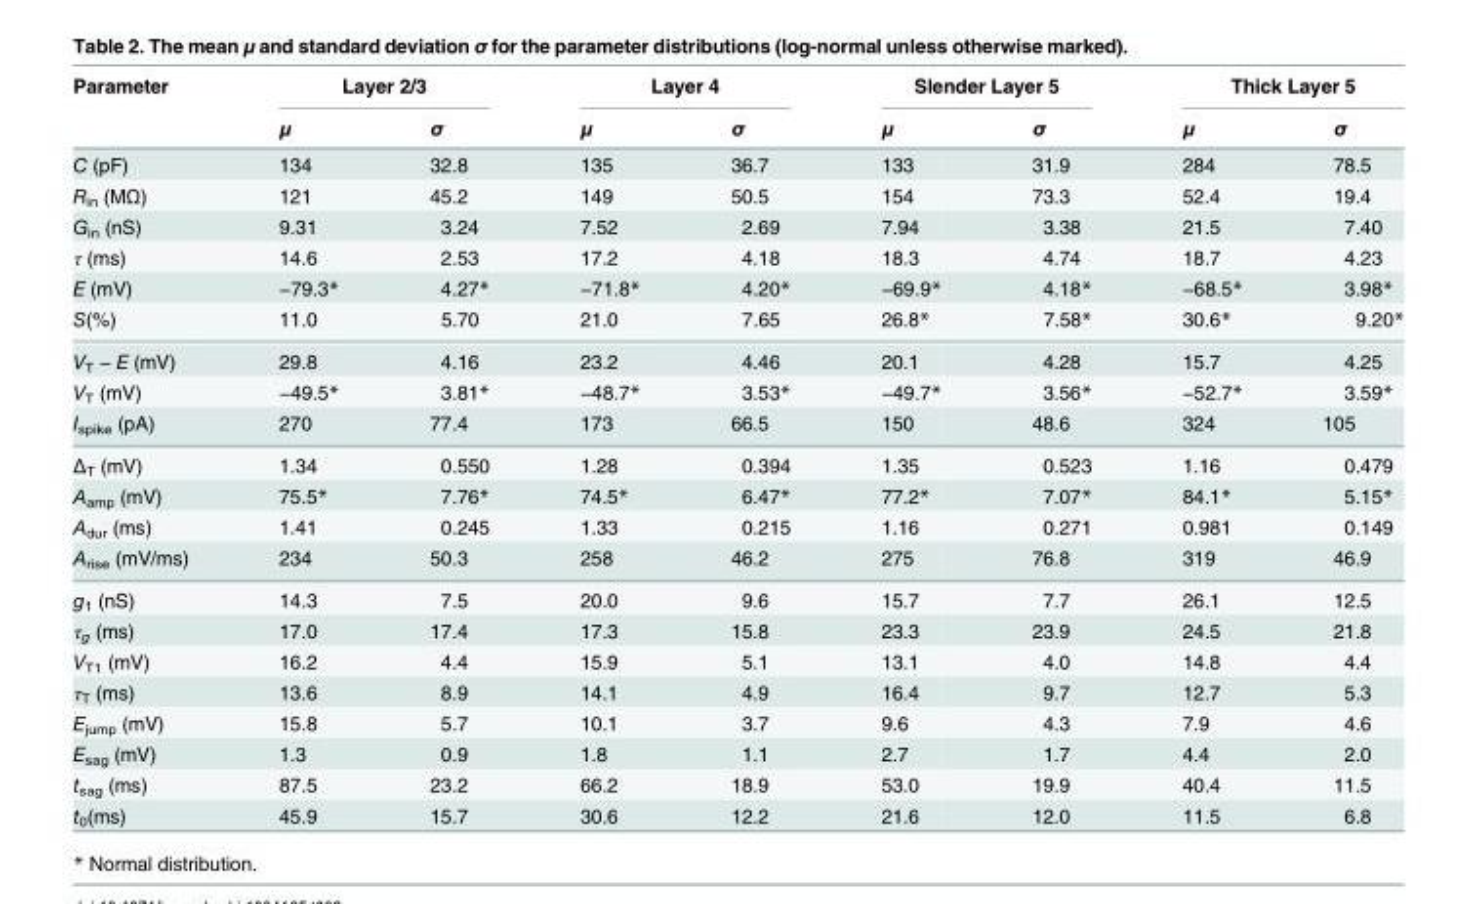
<table><thead><tr><td rowspan="2">Parameter</td><td colspan="2">Layer 2/3</td><td colspan="2">Layer 4</td><td colspan="2">Slender Layer 5</td><td colspan="2">Thick Layer 5</td></tr><tr><td>μ</td><td>σ</td><td>μ</td><td>σ</td><td>μ</td><td>σ</td><td>μ</td><td>σ</td></tr></thead><tbody><tr><td>C (pF)</td><td>134</td><td>32.8</td><td>135</td><td>36.7</td><td>133</td><td>31.9</td><td>284</td><td>78.5</td></tr><tr><td>R<sub>in</sub> (MΩ)</td><td>121</td><td>45.2</td><td>149</td><td>50.5</td><td>154</td><td>73.3</td><td>52.4</td><td>19.4</td></tr><tr><td>G<sub>in</sub> (nS)</td><td>9.31</td><td>3.24</td><td>7.52</td><td>2.69</td><td>7.94</td><td>3.38</td><td>21.5</td><td>7.40</td></tr><tr><td>τ (ms)</td><td>14.6</td><td>2.53</td><td>17.2</td><td>4.18</td><td>18.3</td><td>4.74</td><td>18.7</td><td>4.23</td></tr><tr><td>E (mV)</td><td>−79.3*</td><td>4.27*</td><td>−71.8*</td><td>4.20*</td><td>−69.9*</td><td>4.18*</td><td>−68.5*</td><td>3.98*</td></tr><tr><td>S(%)</td><td>11.0</td><td>5.70</td><td>21.0</td><td>7.65</td><td>26.8*</td><td>7.58*</td><td>30.6*</td><td>9.20*</td></tr><tr><td>V<sub>T</sub> − E (mV)</td><td>29.8</td><td>4.16</td><td>23.2</td><td>4.46</td><td>20.1</td><td>4.28</td><td>15.7</td><td>4.25</td></tr><tr><td>V<sub>T</sub> (mV)</td><td>−49.5*</td><td>3.81*</td><td>−48.7*</td><td>3.53*</td><td>−49.7*</td><td>3.56*</td><td>−52.7*</td><td>3.59*</td></tr><tr><td>I<sub>spike</sub> (pA)</td><td>270</td><td>77.4</td><td>173</td><td>66.5</td><td>150</td><td>48.6</td><td>324</td><td>105</td></tr><tr><td>Δ<sub>T</sub> (mV)</td><td>1.34</td><td>0.550</td><td>1.28</td><td>0.394</td><td>1.35</td><td>0.523</td><td>1.16</td><td>0.479</td></tr><tr><td>A<sub>amp</sub> (mV)</td><td>75.5*</td><td>7.76*</td><td>74.5*</td><td>6.47*</td><td>77.2*</td><td>7.07*</td><td>84.1*</td><td>5.15*</td></tr><tr><td>A<sub>dur</sub> (ms)</td><td>1.41</td><td>0.245</td><td>1.33</td><td>0.215</td><td>1.16</td><td>0.271</td><td>0.981</td><td>0.149</td></tr><tr><td>A<sub>rise</sub> (mV/ms)</td><td>234</td><td>50.3</td><td>258</td><td>46.2</td><td>275</td><td>76.8</td><td>319</td><td>46.9</td></tr><tr><td>g<sub>1</sub> (nS)</td><td>14.3</td><td>7.5</td><td>20.0</td><td>9.6</td><td>15.7</td><td>7.7</td><td>26.1</td><td>12.5</td></tr><tr><td>τ<sub>g</sub> (ms)</td><td>17.0</td><td>17.4</td><td>17.3</td><td>15.8</td><td>23.3</td><td>23.9</td><td>24.5</td><td>21.8</td></tr><tr><td>V<sub>T1</sub> (mV)</td><td>16.2</td><td>4.4</td><td>15.9</td><td>5.1</td><td>13.1</td><td>4.0</td><td>14.8</td><td>4.4</td></tr><tr><td>τ<sub>T</sub> (ms)</td><td>13.6</td><td>8.9</td><td>14.1</td><td>4.9</td><td>16.4</td><td>9.7</td><td>12.7</td><td>5.3</td></tr><tr><td>E<sub>jump</sub> (mV)</td><td>15.8</td><td>5.7</td><td>10.1</td><td>3.7</td><td>9.6</td><td>4.3</td><td>7.9</td><td>4.6</td></tr><tr><td>E<sub>sag</sub> (mV)</td><td>1.3</td><td>0.9</td><td>1.8</td><td>1.1</td><td>2.7</td><td>1.7</td><td>4.4</td><td>2.0</td></tr><tr><td>t<sub>sag</sub> (ms)</td><td>87.5</td><td>23.2</td><td>66.2</td><td>18.9</td><td>53.0</td><td>19.9</td><td>40.4</td><td>11.5</td></tr><tr><td>t<sub>0</sub>(ms)</td><td>45.9</td><td>15.7</td><td>30.6</td><td>12.2</td><td>21.6</td><td>12.0</td><td>11.5</td><td>6.8</td></tr></tbody></table>